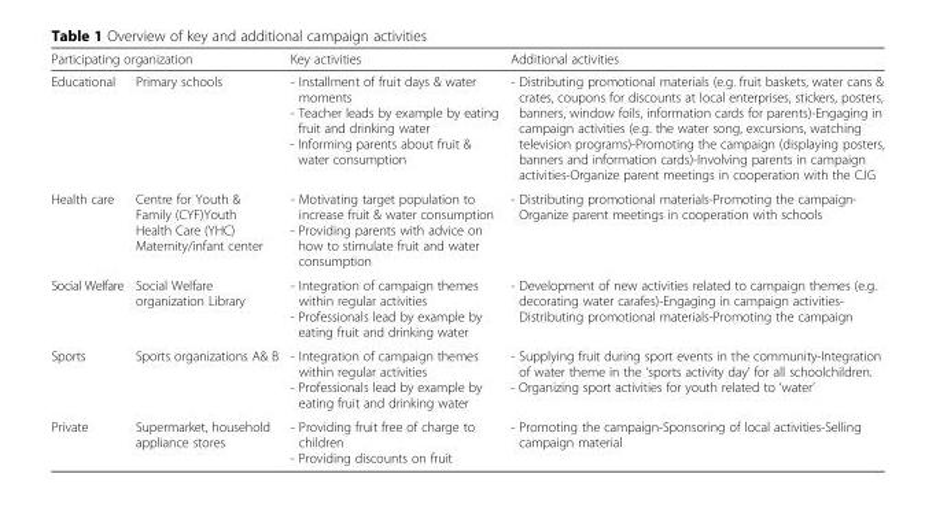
<table><thead><tr><td colspan="2">Participating organization</td><td rowspan="2">Key activities - Installment of fruit days &amp; water moments - Teacher leads by example by eating fruit and drinking water - Informing parents about fruit &amp; water consumption</td><td rowspan="2">Additional activities - Distributing promotional materials (e.g. fruit baskets, water cans &amp; crates, coupons for discounts at local enterprises, stickers, posters, banners, window foils, information cards for parents)-Engaging in campaign activities (e.g. the water song, excursions, watching television programs)-Promoting the campaign (displaying posters, banners and information cards)-Involving parents in campaign activities-Organize parent meetings in cooperation with the CJG</td></tr><tr><td>Educational</td><td>Primary schools</td></tr></thead><tbody><tr><td>Health care</td><td>Centre for Youth &amp; Family (CYF)Youth Health Care (YHC) Maternity/infant center</td><td>- Motivating target population to increase fruit &amp; water consumption - Providing parents with advice on how to stimulate fruit and water consumption</td><td>- Distributing promotional materials-Promoting the campaign- Organize parent meetings in cooperation with schools</td></tr><tr><td>Social Welfare</td><td>Social Welfare organization Library</td><td>- Integration of campaign themes within regular activities - Professionals lead by example by eating fruit and drinking water</td><td>- Development of new activities related to campaign themes (e.g. decorating water carafes)-Engaging in campaign activities- Distributing promotional materials-Promoting the campaign</td></tr><tr><td>Sports</td><td>Sports organizations A&amp; B</td><td>- Integration of campaign themes within regular activities - Professionals lead by example by eating fruit and drinking water</td><td>- Supplying fruit during sport events in the community-Integration of water theme in the ‘sports activity day’ for all schoolchildren. - Organizing sport activities for youth related to ‘water’</td></tr><tr><td>Private</td><td>Supermarket, household appliance stores</td><td>- Providing fruit free of charge to children - Providing discounts on fruit</td><td>- Promoting the campaign-Sponsoring of local activities-Selling campaign material</td></tr></tbody></table>